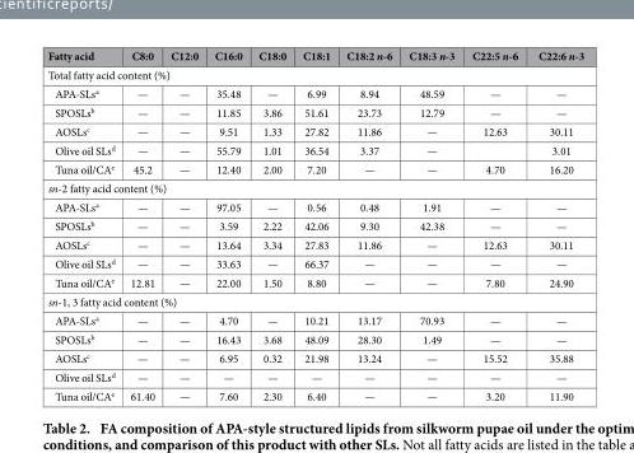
<table><thead><tr><td>Fatty acid</td><td>C8:0</td><td>C12:0</td><td>C16:0</td><td>C18:0</td><td>C18:1</td><td>C18:2 n-6</td><td>C18:3 n-3</td><td>C22:5 n-6</td><td>C22:6 n-3</td></tr></thead><tbody><tr><td colspan="10">Total fatty acid content (%)</td></tr><tr><td>APA-SLs<sup>a</sup></td><td>—</td><td>—</td><td>35.48</td><td>—</td><td>6.99</td><td>8.94</td><td>48.59</td><td>—</td><td>—</td></tr><tr><td>SPOSLs<sup>b</sup></td><td>—</td><td>—</td><td>11.85</td><td>3.86</td><td>51.61</td><td>23.73</td><td>12.79</td><td>—</td><td>—</td></tr><tr><td>AOSLs<sup>c</sup></td><td>—</td><td>—</td><td>9.51</td><td>1.33</td><td>27.82</td><td>11.86</td><td>—</td><td>12.63</td><td>30.11</td></tr><tr><td>Olive oil SLs<sup>d</sup></td><td>—</td><td>—</td><td>55.79</td><td>1.01</td><td>36.54</td><td>3.37</td><td>—</td><td></td><td>3.01</td></tr><tr><td>Tuna oil/CA<sup>e</sup></td><td>45.2</td><td>—</td><td>12.40</td><td>2.00</td><td>7.20</td><td>—</td><td>—</td><td>4.70</td><td>16.20</td></tr><tr><td colspan="10">sn-2 fatty acid content (%)</td></tr><tr><td>APA-SLs<sup>a</sup></td><td>—</td><td>—</td><td>97.05</td><td>—</td><td>0.56</td><td>0.48</td><td>1.91</td><td>—</td><td>—</td></tr><tr><td>SPOSLs<sup>b</sup></td><td>—</td><td>—</td><td>3.59</td><td>2.22</td><td>42.06</td><td>9.30</td><td>42.38</td><td>—</td><td>—</td></tr><tr><td>AOSLs<sup>c</sup></td><td>—</td><td>—</td><td>13.64</td><td>3.34</td><td>27.83</td><td>11.86</td><td>—</td><td>12.63</td><td>30.11</td></tr><tr><td>Olive oil SLs<sup>d</sup></td><td>—</td><td>—</td><td>33.63</td><td>—</td><td>66.37</td><td>—</td><td>—</td><td>—</td><td>—</td></tr><tr><td>Tuna oil/CA<sup>e</sup></td><td>12.81</td><td>—</td><td>22.00</td><td>1.50</td><td>8.80</td><td>—</td><td>—</td><td>7.80</td><td>24.90</td></tr><tr><td colspan="10">sn-1, 3 fatty acid content (%)</td></tr><tr><td>APA-SLs<sup>a</sup></td><td>—</td><td>—</td><td>4.70</td><td>—</td><td>10.21</td><td>13.17</td><td>70.93</td><td>—</td><td>—</td></tr><tr><td>SPOSLs<sup>b</sup></td><td>—</td><td>—</td><td>16.43</td><td>3.68</td><td>48.09</td><td>28.30</td><td>1.49</td><td>—</td><td>—</td></tr><tr><td>AOSLs<sup>c</sup></td><td>—</td><td>—</td><td>6.95</td><td>0.32</td><td>21.98</td><td>13.24</td><td>—</td><td>15.52</td><td>35.88</td></tr><tr><td>Olive oil SLs<sup>d</sup></td><td>—</td><td>—</td><td>—</td><td>—</td><td>—</td><td>—</td><td>—</td><td>—</td><td>—</td></tr><tr><td>Tuna oil/CA<sup>e</sup></td><td>61.40</td><td>—</td><td>7.60</td><td>2.30</td><td>6.40</td><td>—</td><td>—</td><td>3.20</td><td>11.90</td></tr></tbody></table>